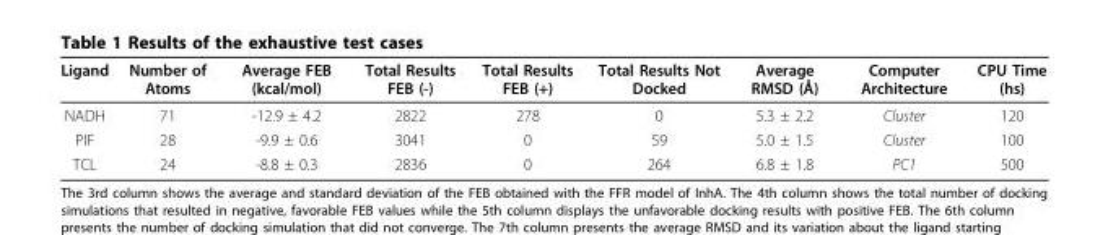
<table><thead><tr><td>Ligand</td><td>Number of Atoms</td><td>Average FEB (kcal/mol)</td><td>Total Results FEB (-)</td><td>Total Results FEB (+)</td><td>Total Results Not Docked</td><td>Average RMSD (Å)</td><td>Computer Architecture</td><td>CPU Time (hs)</td></tr></thead><tbody><tr><td>NADH</td><td>71</td><td>-12.9 ± 4.2</td><td>2822</td><td>278</td><td>0</td><td>5.3 ± 2.2</td><td>Cluster</td><td>120</td></tr><tr><td>PIF</td><td>28</td><td>-9.9 ± 0.6</td><td>3041</td><td>0</td><td>59</td><td>5.0 ± 1.5</td><td>Cluster</td><td>100</td></tr><tr><td>TCL</td><td>24</td><td>-8.8 ± 0.3</td><td>2836</td><td>0</td><td>264</td><td>6.8 ± 1.8</td><td>PC1</td><td>500</td></tr></tbody></table>